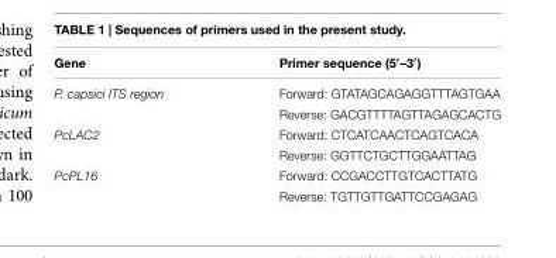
<table><thead><tr><td>Gene</td><td>Primer sequence (5′–3′)</td></tr></thead><tbody><tr><td rowspan="2">P. capsici ITS region</td><td>Forward: GTATAGCAGAGGTTTAGTGAA</td></tr><tr><td>Reverse: GACGTTTTAGTTAGAGCACTG</td></tr><tr><td rowspan="2">PcLAC2</td><td>Forward: CTCATCAACTCAGTCACA</td></tr><tr><td>Reverse: GGTTCTGCTTGGAATTAG</td></tr><tr><td rowspan="2">PcPL16</td><td>Forward: CCGACCTTGTCACTTATG</td></tr><tr><td>Reverse: TGTTGTTGATTCCGAGAG</td></tr></tbody></table>